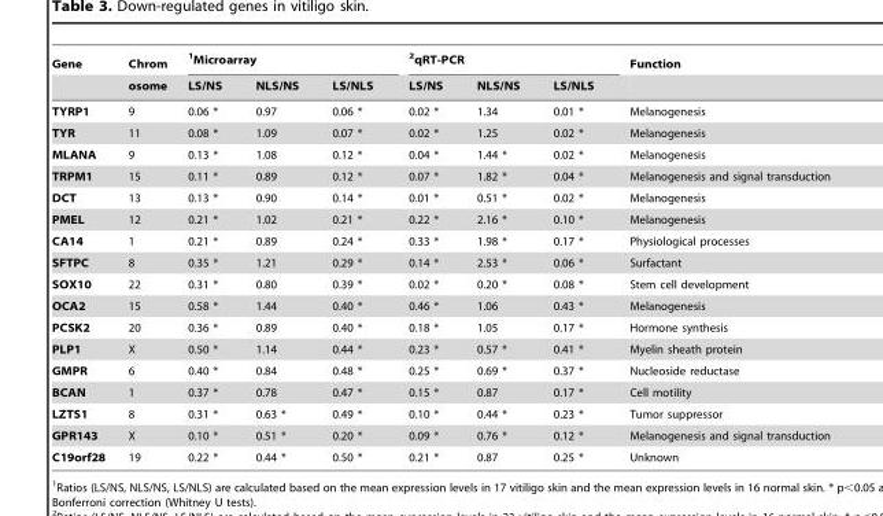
<table><thead><tr><td rowspan="2">Gene</td><td rowspan="2">Chrom osome</td><td colspan="3">1Microarray</td><td colspan="3">2qRT-PCR</td><td rowspan="2">Function</td></tr><tr><td>LS/NS</td><td>NLS/NS</td><td>LS/NLS</td><td>LS/NS</td><td>NLS/NS</td><td>LS/NLS</td></tr></thead><tbody><tr><td>TYRP1</td><td>9</td><td>0.06 *</td><td>0.97</td><td>0.06 *</td><td>0.02 *</td><td>1.34</td><td>0.01 *</td><td>Melanogenesis</td></tr><tr><td>TYR</td><td>11</td><td>0.08 *</td><td>1.09</td><td>0.07 *</td><td>0.02 *</td><td>1.25</td><td>0.02 *</td><td>Melanogenesis</td></tr><tr><td>MLANA</td><td>9</td><td>0.13 *</td><td>1.08</td><td>0.12 *</td><td>0.04 *</td><td>1.44 *</td><td>0.02 *</td><td>Melanogenesis</td></tr><tr><td>TRPM1</td><td>15</td><td>0.11 *</td><td>0.89</td><td>0.12 *</td><td>0.07 *</td><td>1.82 *</td><td>0.04 *</td><td>Melanogenesis and signal transduction</td></tr><tr><td>DCT</td><td>13</td><td>0.13 *</td><td>0.90</td><td>0.14 *</td><td>0.01 *</td><td>0.51 *</td><td>0.02 *</td><td>Melanogenesis</td></tr><tr><td>PMEL</td><td>12</td><td>0.21 *</td><td>1.02</td><td>0.21 *</td><td>0.22 *</td><td>2.16 *</td><td>0.10 *</td><td>Melanogenesis</td></tr><tr><td>CA14</td><td>1</td><td>0.21 *</td><td>0.89</td><td>0.24 *</td><td>0.33 *</td><td>1.98 *</td><td>0.17 *</td><td>Physiological processes</td></tr><tr><td>SFTPC</td><td>8</td><td>0.35 *</td><td>1.21</td><td>0.29 *</td><td>0.14 *</td><td>2.53 *</td><td>0.06 *</td><td>Surfactant</td></tr><tr><td>SOX10</td><td>22</td><td>0.31 *</td><td>0.80</td><td>0.39 *</td><td>0.02 *</td><td>0.20 *</td><td>0.08 *</td><td>Stem cell development</td></tr><tr><td>OCA2</td><td>15</td><td>0.58 *</td><td>1.44</td><td>0.40 *</td><td>0.46 *</td><td>1.06</td><td>0.43 *</td><td>Melanogenesis</td></tr><tr><td>PCSK2</td><td>20</td><td>0.36 *</td><td>0.89</td><td>0.40 *</td><td>0.18 *</td><td>1.05</td><td>0.17 *</td><td>Hormone synthesis</td></tr><tr><td>PLP1</td><td>X</td><td>0.50 *</td><td>1.14</td><td>0.44 *</td><td>0.23 *</td><td>0.57 *</td><td>0.41 *</td><td>Myelin sheath protein</td></tr><tr><td>GMPR</td><td>6</td><td>0.40 *</td><td>0.84</td><td>0.48 *</td><td>0.25 *</td><td>0.69 *</td><td>0.37 *</td><td>Nucleoside reductase</td></tr><tr><td>BCAN</td><td>1</td><td>0.37 *</td><td>0.78</td><td>0.47 *</td><td>0.15 *</td><td>0.87</td><td>0.17 *</td><td>Cell motility</td></tr><tr><td>LZTS1</td><td>8</td><td>0.31 *</td><td>0.63 *</td><td>0.49 *</td><td>0.10 *</td><td>0.44 *</td><td>0.23 *</td><td>Tumor suppressor</td></tr><tr><td>GPR143</td><td>X</td><td>0.10 *</td><td>0.51 *</td><td>0.20 *</td><td>0.09 *</td><td>0.76 *</td><td>0.12 *</td><td>Melanogenesis and signal transduction</td></tr><tr><td>C19orf28</td><td>19</td><td>0.22 *</td><td>0.44 *</td><td>0.50 *</td><td>0.21 *</td><td>0.87</td><td>0.25 *</td><td>Unknown</td></tr></tbody></table>